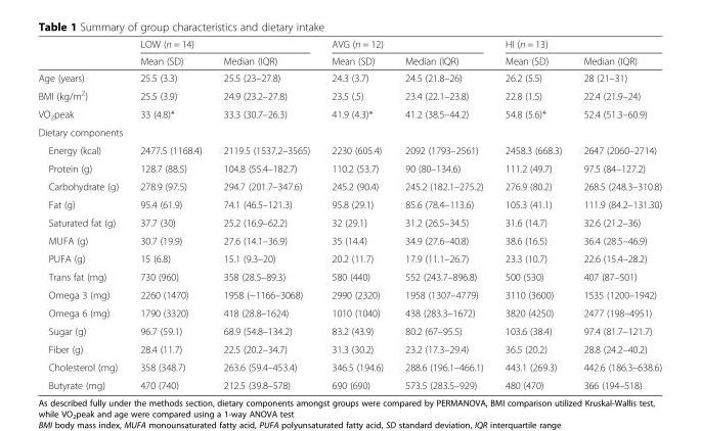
<table><thead><tr><td rowspan="2"></td><td colspan="2">LOW (n = 14)</td><td colspan="2">AVG (n = 12)</td><td colspan="2">HI (n = 13)</td></tr><tr><td>Mean (SD)</td><td>Median (IQR)</td><td>Mean (SD)</td><td>Median (IQR)</td><td>Mean (SD)</td><td>Median (IQR)</td></tr></thead><tbody><tr><td>Age (years)</td><td>25.5 (3.3)</td><td>25.5 (23–27.8)</td><td>24.3 (3.7)</td><td>24.5 (21.8–26)</td><td>26.2 (5.5)</td><td>28 (21–31)</td></tr><tr><td>BMI (kg/m<sup>2</sup>)</td><td>25.5 (3.9)</td><td>24.9 (23.2–27.8)</td><td>23.5 (.5)</td><td>23.4 (22.1–23.8)</td><td>22.8 (1.5)</td><td>22.4 (21.9–24)</td></tr><tr><td>VO<sub>2</sub>peak</td><td>33 (4.8)*</td><td>33.3 (30.7–26.3)</td><td>41.9 (4.3)*</td><td>41.2 (38.5–44.2)</td><td>54.8 (5.6)*</td><td>52.4 (51.3–60.9)</td></tr><tr><td colspan="7">Dietary components</td></tr><tr><td>Energy (kcal)</td><td>2477.5 (1168.4)</td><td>2119.5 (1537.2–3565)</td><td>2230 (605.4)</td><td>2092 (1793–2561)</td><td>2458.3 (668.3)</td><td>2647 (2060–2714)</td></tr><tr><td>Protein (g)</td><td>128.7 (88.5)</td><td>104.8 (55.4–182.7)</td><td>110.2 (53.7)</td><td>90 (80–134.6)</td><td>111.2 (49.7)</td><td>97.5 (84–127.2)</td></tr><tr><td>Carbohydrate (g)</td><td>278.9 (97.5)</td><td>294.7 (201.7–347.6)</td><td>245.2 (90.4)</td><td>245.2 (182.1–275.2)</td><td>276.9 (80.2)</td><td>268.5 (248.3–310.8)</td></tr><tr><td>Fat (g)</td><td>95.4 (61.9)</td><td>74.1 (46.5–121.3)</td><td>95.8 (29.1)</td><td>85.6 (78.4–113.6)</td><td>105.3 (41.1)</td><td>111.9 (84.2–131.30)</td></tr><tr><td>Saturated fat (g)</td><td>37.7 (30)</td><td>25.2 (16.9–62.2)</td><td>32 (29.1)</td><td>31.2 (26.5–34.5)</td><td>31.6 (14.7)</td><td>32.6 (21.2–36)</td></tr><tr><td>MUFA (g)</td><td>30.7 (19.9)</td><td>27.6 (14.1–36.9)</td><td>35 (14.4)</td><td>34.9 (27.6–40.8)</td><td>38.6 (16.5)</td><td>36.4 (28.5–46.9)</td></tr><tr><td>PUFA (g)</td><td>15 (6.8)</td><td>15.1 (9.3–20)</td><td>20.2 (11.7)</td><td>17.9 (11.1–26.7)</td><td>23.3 (10.7)</td><td>22.6 (15.4–28.2)</td></tr><tr><td>Trans fat (mg)</td><td>730 (960)</td><td>358 (28.5–89.3)</td><td>580 (440)</td><td>552 (243.7–896.8)</td><td>500 (530)</td><td>407 (87–501)</td></tr><tr><td>Omega 3 (mg)</td><td>2260 (1470)</td><td>1958 (−1166–3068)</td><td>2990 (2320)</td><td>1958 (1307–4779)</td><td>3110 (3600)</td><td>1535 (1200–1942)</td></tr><tr><td>Omega 6 (mg)</td><td>1790 (3320)</td><td>418 (28.8–1624)</td><td>1010 (1040)</td><td>438 (283.3–1672)</td><td>3820 (4250)</td><td>2477 (198–4951)</td></tr><tr><td>Sugar (g)</td><td>96.7 (59.1)</td><td>68.9 (54.8–134.2)</td><td>83.2 (43.9)</td><td>80.2 (67–95.5)</td><td>103.6 (38.4)</td><td>97.4 (81.7–121.7)</td></tr><tr><td>Fiber (g)</td><td>28.4 (11.7)</td><td>22.5 (20.2–34.7)</td><td>31.3 (30.2)</td><td>23.2 (17.3–29.4)</td><td>36.5 (20.2)</td><td>28.8 (24.2–40.2)</td></tr><tr><td>Cholesterol (mg)</td><td>358 (348.7)</td><td>263.6 (59.4–453.4)</td><td>346.5 (194.6)</td><td>288.6 (196.1–466.1)</td><td>443.1 (269.3)</td><td>442.6 (186.3–638.6)</td></tr><tr><td>Butyrate (mg)</td><td>470 (740)</td><td>212.5 (39.8–578)</td><td>690 (690)</td><td>573.5 (283.5–929)</td><td>480 (470)</td><td>366 (194–518)</td></tr></tbody></table>